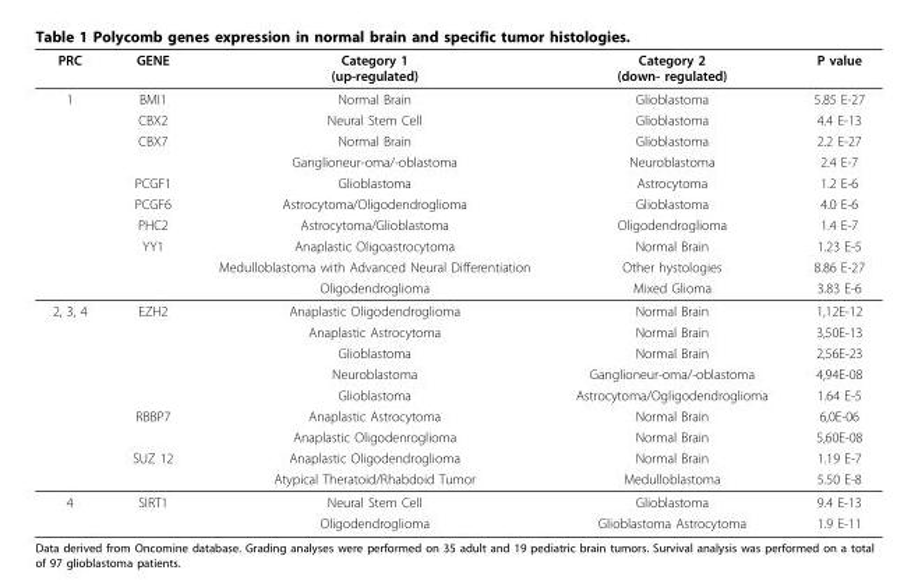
<table><thead><tr><td>PRC</td><td>GENE</td><td>Category 1 (up-regulated)</td><td>Category 2 (down- regulated)</td><td>P value</td></tr></thead><tbody><tr><td rowspan="10">1</td><td>BMI1</td><td>Normal Brain</td><td>Glioblastoma</td><td>5.85 E-27</td></tr><tr><td>CBX2</td><td>Neural Stem Cell</td><td>Glioblastoma</td><td>4.4 E-13</td></tr><tr><td>CBX7</td><td>Normal Brain</td><td>Glioblastoma</td><td>2.2 E-27</td></tr><tr><td></td><td>Ganglioneur-oma/-oblastoma</td><td>Neuroblastoma</td><td>2.4 E-7</td></tr><tr><td>PCGF1</td><td>Glioblastoma</td><td>Astrocytoma</td><td>1.2 E-6</td></tr><tr><td>PCGF6</td><td>Astrocytoma/Oligodendroglioma</td><td>Glioblastoma</td><td>4.0 E-6</td></tr><tr><td>PHC2</td><td>Astrocytoma/Glioblastoma</td><td>Oligodendroglioma</td><td>1.4 E-7</td></tr><tr><td>YY1</td><td>Anaplastic Oligoastrocytoma</td><td>Normal Brain</td><td>1.23 E-5</td></tr><tr><td></td><td>Medulloblastoma with Advanced Neural Differentiation</td><td>Other hystologies</td><td>8.86 E-27</td></tr><tr><td></td><td>Oligodendroglioma</td><td>Mixed Glioma</td><td>3.83 E-6</td></tr><tr><td rowspan="9">2, 3, 4</td><td>EZH2</td><td>Anaplastic Oligodendroglioma</td><td>Normal Brain</td><td>1,12E-12</td></tr><tr><td></td><td>Anaplastic Astrocytoma</td><td>Normal Brain</td><td>3,50E-13</td></tr><tr><td></td><td>Glioblastoma</td><td>Normal Brain</td><td>2,56E-23</td></tr><tr><td></td><td>Neuroblastoma</td><td>Ganglioneur-oma/-oblastoma</td><td>4,94E-08</td></tr><tr><td></td><td>Glioblastoma</td><td>Astrocytoma/Ogligodendroglioma</td><td>1.64 E-5</td></tr><tr><td>RBBP7</td><td>Anaplastic Astrocytoma</td><td>Normal Brain</td><td>6,0E-06</td></tr><tr><td></td><td>Anaplastic Oligodenroglioma</td><td>Normal Brain</td><td>5,60E-08</td></tr><tr><td>SUZ 12</td><td>Anaplastic Oligodendroglioma</td><td>Normal Brain</td><td>1.19 E-7</td></tr><tr><td></td><td>Atypical Theratoid/Rhabdoid Tumor</td><td>Medulloblastoma</td><td>5.50 E-8</td></tr><tr><td rowspan="2">4</td><td>SIRT1</td><td>Neural Stem Cell</td><td>Glioblastoma</td><td>9.4 E-13</td></tr><tr><td></td><td>Oligodendroglioma</td><td>Glioblastoma Astrocytoma</td><td>1.9 E-11</td></tr></tbody></table>